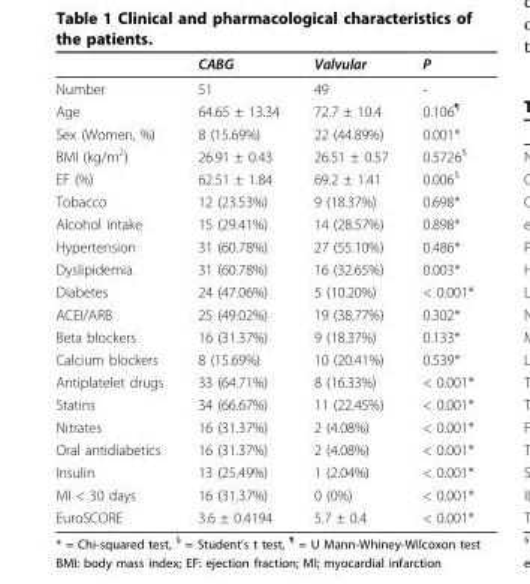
<table><thead><tr><td></td><td>CABG</td><td>Valvular</td><td>P</td></tr></thead><tbody><tr><td>Number</td><td>51</td><td>49</td><td>-</td></tr><tr><td>Age</td><td>64.65 ± 13.34</td><td>72.7 ± 10.4</td><td>0.106<sup>¶</sup></td></tr><tr><td>Sex (Women, %)</td><td>8 (15.69%)</td><td>22 (44.89%)</td><td>0.001*</td></tr><tr><td>BMI (kg/m<sup>2</sup>)</td><td>26.91 ± 0.43</td><td>26.51 ± 0.57</td><td>0.5726<sup>§</sup></td></tr><tr><td>EF (%)</td><td>62.51 ± 1.84</td><td>69.2 ± 1.41</td><td>0.006<sup>§</sup></td></tr><tr><td>Tobacco</td><td>12 (23.53%)</td><td>9 (18.37%)</td><td>0.698*</td></tr><tr><td>Alcohol intake</td><td>15 (29.41%)</td><td>14 (28.57%)</td><td>0.898*</td></tr><tr><td>Hypertension</td><td>31 (60.78%)</td><td>27 (55.10%)</td><td>0.486*</td></tr><tr><td>Dyslipidemia</td><td>31 (60.78%)</td><td>16 (32.65%)</td><td>0.003*</td></tr><tr><td>Diabetes</td><td>24 (47.06%)</td><td>5 (10.20%)</td><td>&lt; 0.001*</td></tr><tr><td>ACEI/ARB</td><td>25 (49.02%)</td><td>19 (38.77%)</td><td>0.302*</td></tr><tr><td>Beta blockers</td><td>16 (31.37%)</td><td>9 (18.37%)</td><td>0.133*</td></tr><tr><td>Calcium blockers</td><td>8 (15.69%)</td><td>10 (20.41%)</td><td>0.539*</td></tr><tr><td>Antiplatelet drugs</td><td>33 (64.71%)</td><td>8 (16.33%)</td><td>&lt; 0.001*</td></tr><tr><td>Statins</td><td>34 (66.67%)</td><td>11 (22.45%)</td><td>&lt; 0.001*</td></tr><tr><td>Nitrates</td><td>16 (31.37%)</td><td>2 (4.08%)</td><td>&lt; 0.001*</td></tr><tr><td>Oral antidiabetics</td><td>16 (31.37%)</td><td>2 (4.08%)</td><td>&lt; 0.001*</td></tr><tr><td>Insulin</td><td>13 (25.49%)</td><td>1 (2.04%)</td><td>&lt; 0.001*</td></tr><tr><td>MI &lt; 30 days</td><td>16 (31.37%)</td><td>0 (0%)</td><td>&lt; 0.001*</td></tr><tr><td>EuroSCORE</td><td>3.6 ± 0.4194</td><td>5.7 ± 0.4</td><td>&lt; 0.001*</td></tr></tbody></table>